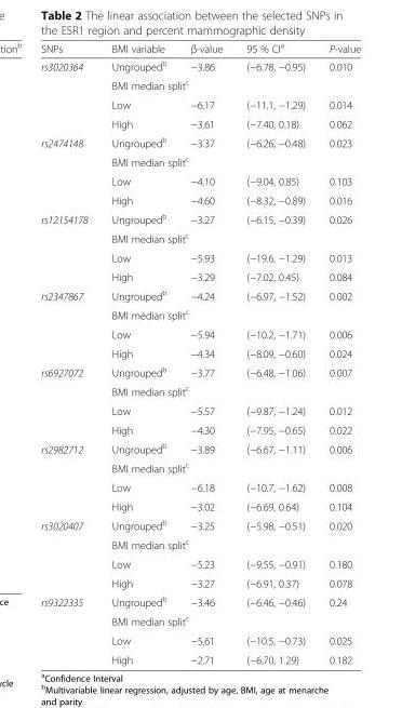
<table><thead><tr><td>SNPs</td><td>BMI variable</td><td>β-value</td><td>95 % CI<sup>a</sup></td><td>P-value</td></tr></thead><tbody><tr><td rowspan="4">rs3020364</td><td>Ungrouped<sup>b</sup></td><td>−3.86</td><td>(−6.78, −0.95)</td><td>0.010</td></tr><tr><td colspan="4">BMI median split<sup>c</sup></td></tr><tr><td>Low</td><td>−6.17</td><td>(−11.1, −1.29)</td><td>0.014</td></tr><tr><td>High</td><td>−3.61</td><td>(−7.40, 0.18)</td><td>0.062</td></tr><tr><td rowspan="4">rs2474148</td><td>Ungrouped<sup>b</sup></td><td>−3.37</td><td>(−6.26, −0.48)</td><td>0.023</td></tr><tr><td colspan="4">BMI median split<sup>c</sup></td></tr><tr><td>Low</td><td>−4.10</td><td>(−9.04, 0.85)</td><td>0.103</td></tr><tr><td>High</td><td>−4.60</td><td>(−8.32, −0.89)</td><td>0.016</td></tr><tr><td rowspan="4">rs12154178</td><td>Ungrouped<sup>b</sup></td><td>−3.27</td><td>(−6.15, −0.39)</td><td>0.026</td></tr><tr><td colspan="4">BMI median split<sup>c</sup></td></tr><tr><td>Low</td><td>−5.93</td><td>(−19.6, −1.29)</td><td>0.013</td></tr><tr><td>High</td><td>−3.29</td><td>(−7.02, 0.45)</td><td>0.084</td></tr><tr><td rowspan="4">rs2347867</td><td>Ungrouped<sup>b</sup></td><td>−4.24</td><td>(−6.97, −1.52)</td><td>0.002</td></tr><tr><td colspan="4">BMI median split<sup>c</sup></td></tr><tr><td>Low</td><td>−5.94</td><td>(−10.2, −1.71)</td><td>0.006</td></tr><tr><td>High</td><td>−4.34</td><td>(−8.09, −0.60)</td><td>0.024</td></tr><tr><td rowspan="4">rs6927072</td><td>Ungrouped<sup>b</sup></td><td>−3.77</td><td>(−6.48, −1.06)</td><td>0.007</td></tr><tr><td colspan="4">BMI median split<sup>c</sup></td></tr><tr><td>Low</td><td>−5.57</td><td>(−9.87, −1.24)</td><td>0.012</td></tr><tr><td>High</td><td>−4.30</td><td>(−7.95, −0.65)</td><td>0.022</td></tr><tr><td rowspan="4">rs2982712</td><td>Ungrouped<sup>b</sup></td><td>−3.89</td><td>(−6.67, −1.11)</td><td>0.006</td></tr><tr><td colspan="4">BMI median split<sup>c</sup></td></tr><tr><td>Low</td><td>−6.18</td><td>(−10.7, −1.62)</td><td>0.008</td></tr><tr><td>High</td><td>−3.02</td><td>(−6.69, 0.64)</td><td>0.104</td></tr><tr><td rowspan="4">rs3020407</td><td>Ungrouped<sup>b</sup></td><td>−3.25</td><td>(−5.98, −0.51)</td><td>0.020</td></tr><tr><td colspan="4">BMI median split<sup>c</sup></td></tr><tr><td>Low</td><td>−5.23</td><td>(−9.55, −0.91)</td><td>0.180</td></tr><tr><td>High</td><td>−3.27</td><td>(−6.91, 0.37)</td><td>0.078</td></tr><tr><td rowspan="4">rs9322335</td><td>Ungrouped<sup>b</sup></td><td>−3.46</td><td>(−6.46, −0.46)</td><td>0.24</td></tr><tr><td colspan="4">BMI median split<sup>c</sup></td></tr><tr><td>Low</td><td>−5.61</td><td>(−10.5, −0.73)</td><td>0.025</td></tr><tr><td>High</td><td>−2.71</td><td>(−6.70, 1.29)</td><td>0.182</td></tr></tbody></table>